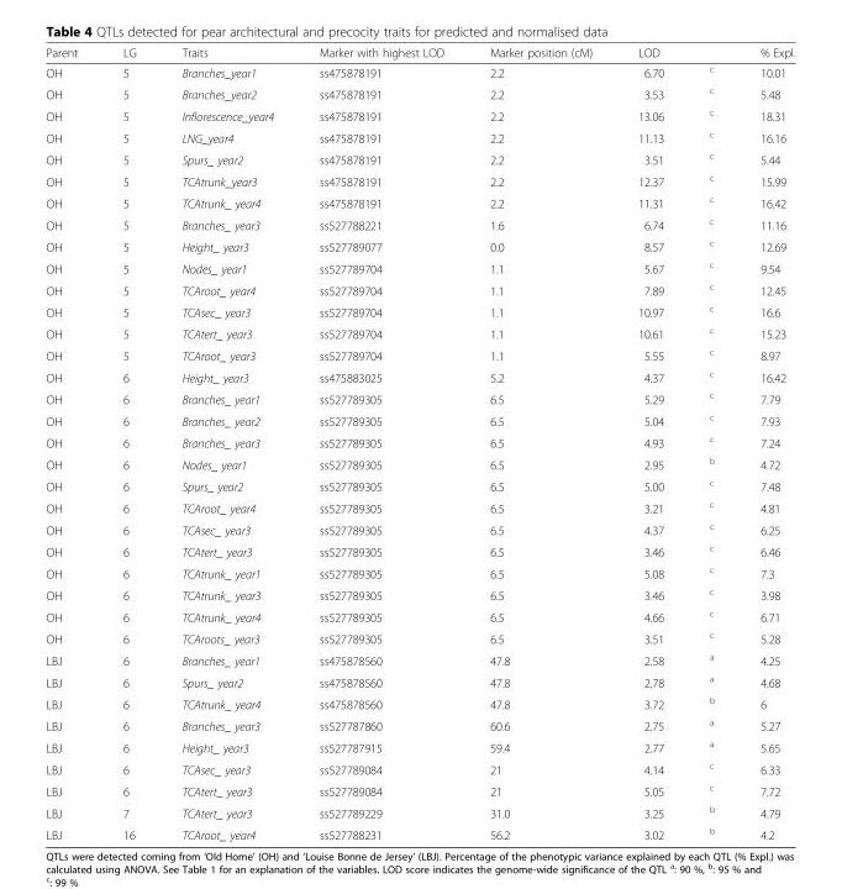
<table><thead><tr><td>Parent</td><td>LG</td><td>Traits</td><td>Marker with highest LOD</td><td>Marker position (cM)</td><td>LOD</td><td></td><td>% Expl.</td></tr></thead><tbody><tr><td>OH</td><td>5</td><td>Branches_year1</td><td>ss475878191</td><td>2.2</td><td>6.70</td><td><sup>c</sup></td><td>10.01</td></tr><tr><td>OH</td><td>5</td><td>Branches_year2</td><td>ss475878191</td><td>2.2</td><td>3.53</td><td><sup>c</sup></td><td>5.48</td></tr><tr><td>OH</td><td>5</td><td>Inflorescence_year4</td><td>ss475878191</td><td>2.2</td><td>13.06</td><td><sup>c</sup></td><td>18.31</td></tr><tr><td>OH</td><td>5</td><td>LNG_year4</td><td>ss475878191</td><td>2.2</td><td>11.13</td><td><sup>c</sup></td><td>16.16</td></tr><tr><td>OH</td><td>5</td><td>Spurs_ year2</td><td>ss475878191</td><td>2.2</td><td>3.51</td><td><sup>c</sup></td><td>5.44</td></tr><tr><td>OH</td><td>5</td><td>TCAtrunk_year3</td><td>ss475878191</td><td>2.2</td><td>12.37</td><td><sup>c</sup></td><td>15.99</td></tr><tr><td>OH</td><td>5</td><td>TCAtrunk_ year4</td><td>ss475878191</td><td>2.2</td><td>11.31</td><td><sup>c</sup></td><td>16.42</td></tr><tr><td>OH</td><td>5</td><td>Branches_ year3</td><td>ss527788221</td><td>1.6</td><td>6.74</td><td><sup>c</sup></td><td>11.16</td></tr><tr><td>OH</td><td>5</td><td>Height_ year3</td><td>ss527789077</td><td>0.0</td><td>8.57</td><td><sup>c</sup></td><td>12.69</td></tr><tr><td>OH</td><td>5</td><td>Nodes_ year1</td><td>ss527789704</td><td>1.1</td><td>5.67</td><td><sup>c</sup></td><td>9.54</td></tr><tr><td>OH</td><td>5</td><td>TCAroot_ year4</td><td>ss527789704</td><td>1.1</td><td>7.89</td><td><sup>c</sup></td><td>12.45</td></tr><tr><td>OH</td><td>5</td><td>TCAsec_ year3</td><td>ss527789704</td><td>1.1</td><td>10.97</td><td><sup>c</sup></td><td>16.6</td></tr><tr><td>OH</td><td>5</td><td>TCAtert_ year3</td><td>ss527789704</td><td>1.1</td><td>10.61</td><td><sup>c</sup></td><td>15.23</td></tr><tr><td>OH</td><td>5</td><td>TCAroot_ year3</td><td>ss527789704</td><td>1.1</td><td>5.55</td><td><sup>c</sup></td><td>8.97</td></tr><tr><td>OH</td><td>6</td><td>Height_ year3</td><td>ss475883025</td><td>5.2</td><td>4.37</td><td><sup>c</sup></td><td>16.42</td></tr><tr><td>OH</td><td>6</td><td>Branches_ year1</td><td>ss527789305</td><td>6.5</td><td>5.29</td><td><sup>c</sup></td><td>7.79</td></tr><tr><td>OH</td><td>6</td><td>Branches_ year2</td><td>ss527789305</td><td>6.5</td><td>5.04</td><td><sup>c</sup></td><td>7.93</td></tr><tr><td>OH</td><td>6</td><td>Branches_ year3</td><td>ss527789305</td><td>6.5</td><td>4.93</td><td><sup>c</sup></td><td>7.24</td></tr><tr><td>OH</td><td>6</td><td>Nodes_ year1</td><td>ss527789305</td><td>6.5</td><td>2.95</td><td><sup>b</sup></td><td>4.72</td></tr><tr><td>OH</td><td>6</td><td>Spurs_ year2</td><td>ss527789305</td><td>6.5</td><td>5.00</td><td><sup>c</sup></td><td>7.48</td></tr><tr><td>OH</td><td>6</td><td>TCAroot_ year4</td><td>ss527789305</td><td>6.5</td><td>3.21</td><td><sup>c</sup></td><td>4.81</td></tr><tr><td>OH</td><td>6</td><td>TCAsec_ year3</td><td>ss527789305</td><td>6.5</td><td>4.37</td><td><sup>c</sup></td><td>6.25</td></tr><tr><td>OH</td><td>6</td><td>TCAtert_ year3</td><td>ss527789305</td><td>6.5</td><td>3.46</td><td><sup>c</sup></td><td>6.46</td></tr><tr><td>OH</td><td>6</td><td>TCAtrunk_ year1</td><td>ss527789305</td><td>6.5</td><td>5.08</td><td><sup>c</sup></td><td>7.3</td></tr><tr><td>OH</td><td>6</td><td>TCAtrunk_ year3</td><td>ss527789305</td><td>6.5</td><td>3.46</td><td><sup>c</sup></td><td>3.98</td></tr><tr><td>OH</td><td>6</td><td>TCAtrunk_ year4</td><td>ss527789305</td><td>6.5</td><td>4.66</td><td><sup>c</sup></td><td>6.71</td></tr><tr><td>OH</td><td>6</td><td>TCAroots_ year3</td><td>ss527789305</td><td>6.5</td><td>3.51</td><td><sup>c</sup></td><td>5.28</td></tr><tr><td>LBJ</td><td>6</td><td>Branches_ year1</td><td>ss475878560</td><td>47.8</td><td>2.58</td><td><sup>a</sup></td><td>4.25</td></tr><tr><td>LBJ</td><td>6</td><td>Spurs_ year2</td><td>ss475878560</td><td>47.8</td><td>2.78</td><td><sup>a</sup></td><td>4.68</td></tr><tr><td>LBJ</td><td>6</td><td>TCAtrunk_ year4</td><td>ss475878560</td><td>47.8</td><td>3.72</td><td><sup>b</sup></td><td>6</td></tr><tr><td>LBJ</td><td>6</td><td>Branches_ year3</td><td>ss527787860</td><td>60.6</td><td>2.75</td><td><sup>a</sup></td><td>5.27</td></tr><tr><td>LBJ</td><td>6</td><td>Height_ year3</td><td>ss527787915</td><td>59.4</td><td>2.77</td><td><sup>a</sup></td><td>5.65</td></tr><tr><td>LBJ</td><td>6</td><td>TCAsec_ year3</td><td>ss527789084</td><td>21</td><td>4.14</td><td><sup>c</sup></td><td>6.33</td></tr><tr><td>LBJ</td><td>6</td><td>TCAtert_ year3</td><td>ss527789084</td><td>21</td><td>5.05</td><td><sup>c</sup></td><td>7.72</td></tr><tr><td>LBJ</td><td>7</td><td>TCAtert_ year3</td><td>ss527789229</td><td>31.0</td><td>3.25</td><td><sup>b</sup></td><td>4.79</td></tr><tr><td>LBJ</td><td>16</td><td>TCAroot_ year4</td><td>ss527788231</td><td>56.2</td><td>3.02</td><td><sup>b</sup></td><td>4.2</td></tr></tbody></table>